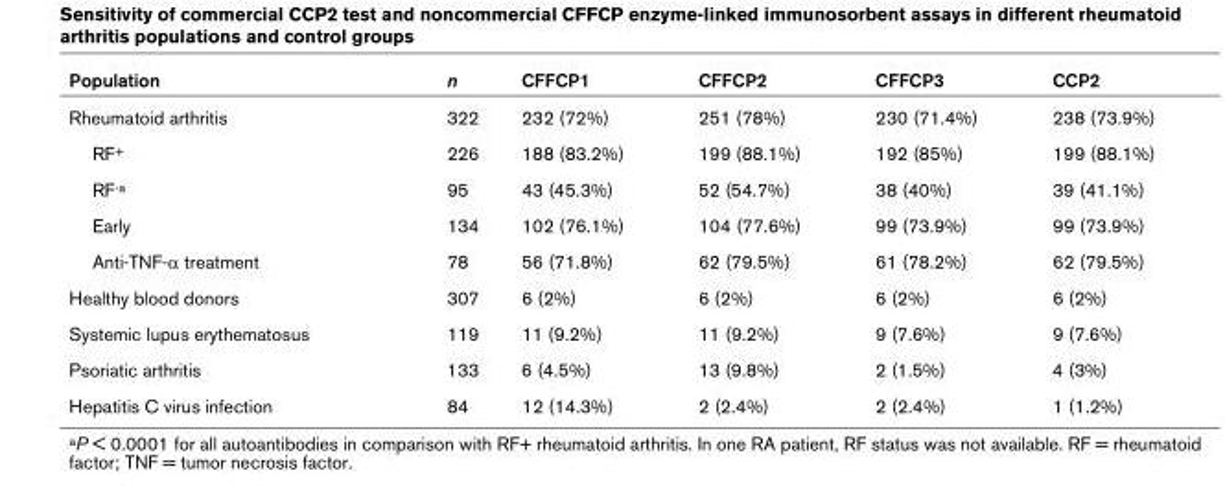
<table><thead><tr><td>Population</td><td>n</td><td>CFFCP1</td><td>CFFCP2</td><td>CFFCP3</td><td>CCP2</td></tr></thead><tbody><tr><td>Rheumatoid arthritis</td><td>322</td><td>232 (72%)</td><td>251 (78%)</td><td>230 (71.4%)</td><td>238 (73.9%)</td></tr><tr><td>RF<sup>+</sup></td><td>226</td><td>188 (83.2%)</td><td>199 (88.1%)</td><td>192 (85%)</td><td>199 (88.1%)</td></tr><tr><td>RF<sup>-a</sup></td><td>95</td><td>43 (45.3%)</td><td>52 (54.7%)</td><td>38 (40%)</td><td>39 (41.1%)</td></tr><tr><td>Early</td><td>134</td><td>102 (76.1%)</td><td>104 (77.6%)</td><td>99 (73.9%)</td><td>99 (73.9%)</td></tr><tr><td>Anti-TNF-α treatment</td><td>78</td><td>56 (71.8%)</td><td>62 (79.5%)</td><td>61 (78.2%)</td><td>62 (79.5%)</td></tr><tr><td>Healthy blood donors</td><td>307</td><td>6 (2%)</td><td>6 (2%)</td><td>6 (2%)</td><td>6 (2%)</td></tr><tr><td>Systemic lupus erythematosus</td><td>119</td><td>11 (9.2%)</td><td>11 (9.2%)</td><td>9 (7.6%)</td><td>9 (7.6%)</td></tr><tr><td>Psoriatic arthritis</td><td>133</td><td>6 (4.5%)</td><td>13 (9.8%)</td><td>2 (1.5%)</td><td>4 (3%)</td></tr><tr><td>Hepatitis C virus infection</td><td>84</td><td>12 (14.3%)</td><td>2 (2.4%)</td><td>2 (2.4%)</td><td>1 (1.2%)</td></tr></tbody></table>